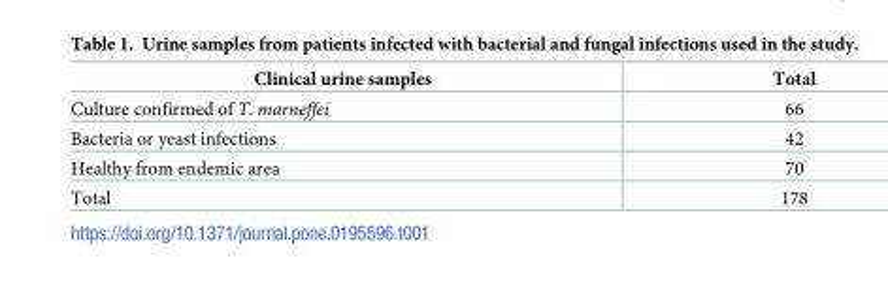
<table><thead><tr><td>Clinical urine samples</td><td>Total</td></tr></thead><tbody><tr><td>Culture confirmed of T. marneffei</td><td>66</td></tr><tr><td>Bacteria or yeast infections</td><td>42</td></tr><tr><td>Healthy from endemic area</td><td>70</td></tr><tr><td>Total</td><td>178</td></tr></tbody></table>